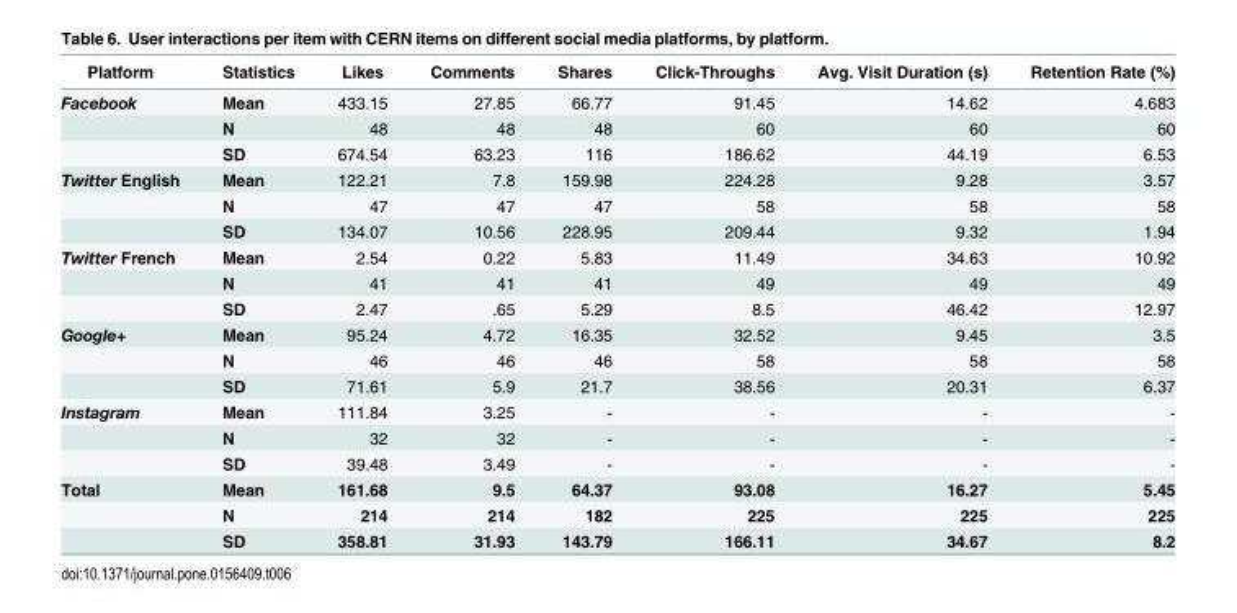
<table><thead><tr><td>Platform</td><td>Statistics</td><td>Likes</td><td>Comments</td><td>Shares</td><td>Click-Throughs</td><td>Avg. Visit Duration (s)</td><td>Retention Rate (%)</td></tr></thead><tbody><tr><td rowspan="3">Facebook</td><td>Mean</td><td>433.15</td><td>27.85</td><td>66.77</td><td>91.45</td><td>14.62</td><td>4.683</td></tr><tr><td>N</td><td>48</td><td>48</td><td>48</td><td>60</td><td>60</td><td>60</td></tr><tr><td>SD</td><td>674.54</td><td>63.23</td><td>116</td><td>186.62</td><td>44.19</td><td>6.53</td></tr><tr><td rowspan="3">Twitter English</td><td>Mean</td><td>122.21</td><td>7.8</td><td>159.98</td><td>224.28</td><td>9.28</td><td>3.57</td></tr><tr><td>N</td><td>47</td><td>47</td><td>47</td><td>58</td><td>58</td><td>58</td></tr><tr><td>SD</td><td>134.07</td><td>10.56</td><td>228.95</td><td>209.44</td><td>9.32</td><td>1.94</td></tr><tr><td rowspan="3">Twitter French</td><td>Mean</td><td>2.54</td><td>0.22</td><td>5.83</td><td>11.49</td><td>34.63</td><td>10.92</td></tr><tr><td>N</td><td>41</td><td>41</td><td>41</td><td>49</td><td>49</td><td>49</td></tr><tr><td>SD</td><td>2.47</td><td>.65</td><td>5.29</td><td>8.5</td><td>46.42</td><td>12.97</td></tr><tr><td rowspan="3">Google+</td><td>Mean</td><td>95.24</td><td>4.72</td><td>16.35</td><td>32.52</td><td>9.45</td><td>3.5</td></tr><tr><td>N</td><td>46</td><td>46</td><td>46</td><td>58</td><td>58</td><td>58</td></tr><tr><td>SD</td><td>71.61</td><td>5.9</td><td>21.7</td><td>38.56</td><td>20.31</td><td>6.37</td></tr><tr><td rowspan="3">Instagram</td><td>Mean</td><td>111.84</td><td>3.25</td><td>-</td><td>-</td><td>-</td><td>-</td></tr><tr><td>N</td><td>32</td><td>32</td><td>-</td><td>-</td><td>-</td><td>-</td></tr><tr><td>SD</td><td>39.48</td><td>3.49</td><td>-</td><td>-</td><td>-</td><td>-</td></tr><tr><td rowspan="3">Total</td><td>Mean</td><td>161.68</td><td>9.5</td><td>64.37</td><td>93.08</td><td>16.27</td><td>5.45</td></tr><tr><td>N</td><td>214</td><td>214</td><td>182</td><td>225</td><td>225</td><td>225</td></tr><tr><td>SD</td><td>358.81</td><td>31.93</td><td>143.79</td><td>166.11</td><td>34.67</td><td>8.2</td></tr></tbody></table>